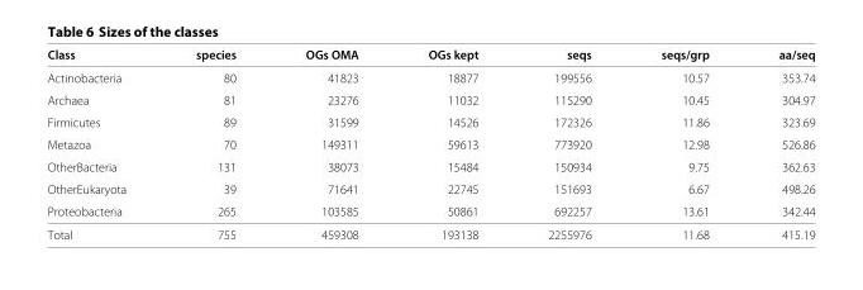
<table><thead><tr><td>Class</td><td>species</td><td>OGs OMA</td><td>OGs kept</td><td>seqs</td><td>seqs/grp</td><td>aa/seq</td></tr></thead><tbody><tr><td>Actinobacteria</td><td>80</td><td>41823</td><td>18877</td><td>199556</td><td>10.57</td><td>353.74</td></tr><tr><td>Archaea</td><td>81</td><td>23276</td><td>11032</td><td>115290</td><td>10.45</td><td>304.97</td></tr><tr><td>Firmicutes</td><td>89</td><td>31599</td><td>14526</td><td>172326</td><td>11.86</td><td>323.69</td></tr><tr><td>Metazoa</td><td>70</td><td>149311</td><td>59613</td><td>773920</td><td>12.98</td><td>526.86</td></tr><tr><td>OtherBacteria</td><td>131</td><td>38073</td><td>15484</td><td>150934</td><td>9.75</td><td>362.63</td></tr><tr><td>OtherEukaryota</td><td>39</td><td>71641</td><td>22745</td><td>151693</td><td>6.67</td><td>498.26</td></tr><tr><td>Proteobacteria</td><td>265</td><td>103585</td><td>50861</td><td>692257</td><td>13.61</td><td>342.44</td></tr><tr><td>Total</td><td>755</td><td>459308</td><td>193138</td><td>2255976</td><td>11.68</td><td>415.19</td></tr></tbody></table>